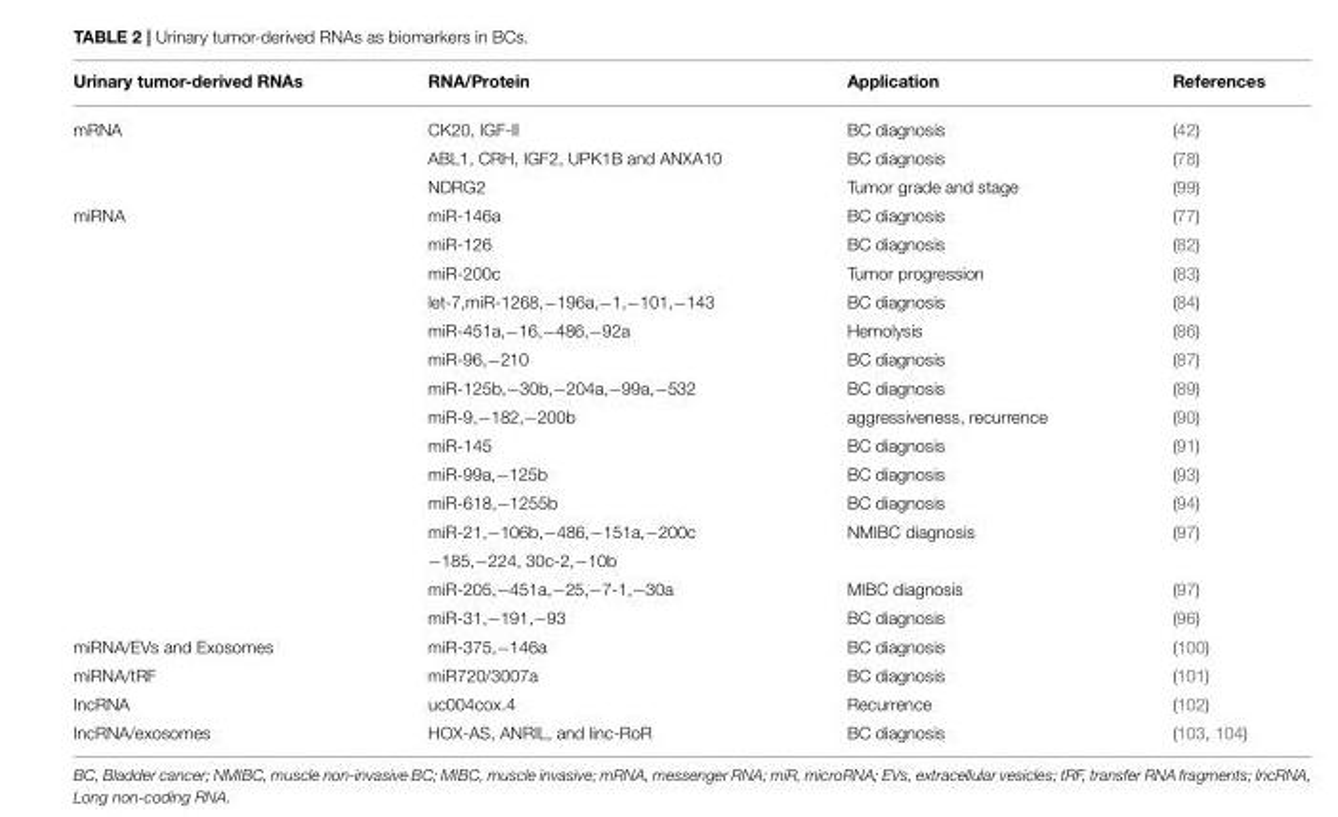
<table><thead><tr><td>Urinary tumor-derived RNAs</td><td>RNA/Protein</td><td>Application</td><td>References</td></tr></thead><tbody><tr><td rowspan="3">mRNA</td><td>CK20, IGF-II</td><td>BC diagnosis</td><td>(42)</td></tr><tr><td>ABL1, CRH, IGF2, UPK1B and ANXA10</td><td>BC diagnosis</td><td>(78)</td></tr><tr><td>NDRG2</td><td>Tumor grade and stage</td><td>(99)</td></tr><tr><td rowspan="15">miRNA</td><td>miR-146a</td><td>BC diagnosis</td><td>(77)</td></tr><tr><td>miR-126</td><td>BC diagnosis</td><td>(82)</td></tr><tr><td>miR-200c</td><td>Tumor progression</td><td>(83)</td></tr><tr><td>let-7,miR-1268,−196a,−1,−101,−143</td><td>BC diagnosis</td><td>(84)</td></tr><tr><td>miR-451a,−16,−486,−92a</td><td>Hemolysis</td><td>(86)</td></tr><tr><td>miR-96,−210</td><td>BC diagnosis</td><td>(87)</td></tr><tr><td>miR-125b,−30b,−204a,−99a,−532</td><td>BC diagnosis</td><td>(89)</td></tr><tr><td>miR-9,−182,−200b</td><td>aggressiveness, recurrence</td><td>(90)</td></tr><tr><td>miR-145</td><td>BC diagnosis</td><td>(91)</td></tr><tr><td>miR-99a,−125b</td><td>BC diagnosis</td><td>(93)</td></tr><tr><td>miR-618,−1255b</td><td>BC diagnosis</td><td>(94)</td></tr><tr><td>miR-21,−106b,−486,−151a,−200c</td><td>NMIBC diagnosis</td><td>(97)</td></tr><tr><td>−185,−224, 30c-2,−10b</td><td></td><td></td></tr><tr><td>miR-205,−451a,−25,−7-1,−30a</td><td>MIBC diagnosis</td><td>(97)</td></tr><tr><td>miR-31,−191,−93</td><td>BC diagnosis</td><td>(96)</td></tr><tr><td>miRNA/EVs and Exosomes</td><td>miR-375,−146a</td><td>BC diagnosis</td><td>(100)</td></tr><tr><td>miRNA/tRF</td><td>miR720/3007a</td><td>BC diagnosis</td><td>(101)</td></tr><tr><td>IncRNA</td><td>uc004cox.4</td><td>Recurrence</td><td>(102)</td></tr><tr><td>IncRNA/exosomes</td><td>HOX-AS, ANRIL, and linc-RoR</td><td>BC diagnosis</td><td>(103, 104)</td></tr></tbody></table>